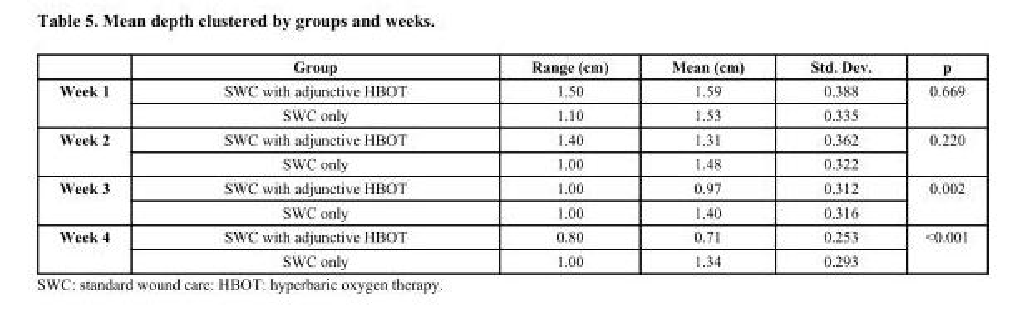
<table><thead><tr><td></td><td>Group</td><td>Range (cm)</td><td>Mean (cm)</td><td>Std. Dev.</td><td>p</td></tr></thead><tbody><tr><td rowspan="2">Week 1</td><td>SWC with adjunctive HBOT</td><td>1.50</td><td>1.59</td><td>0.388</td><td rowspan="2">0.669</td></tr><tr><td>SWC only</td><td>1.10</td><td>1.53</td><td>0.335</td></tr><tr><td rowspan="2">Week 2</td><td>SWC with adjunctive HBOT</td><td>1.40</td><td>1.31</td><td>0.362</td><td rowspan="2">0.220</td></tr><tr><td>SWC only</td><td>1.00</td><td>1.48</td><td>0.322</td></tr><tr><td rowspan="2">Week 3</td><td>SWC with adjunctive HBOT</td><td>1.00</td><td>0.97</td><td>0.312</td><td rowspan="2">0.002</td></tr><tr><td>SWC only</td><td>1.00</td><td>1.40</td><td>0.316</td></tr><tr><td rowspan="2">Week 4</td><td>SWC with adjunctive HBOT</td><td>0.80</td><td>0.71</td><td>0.253</td><td rowspan="2">&lt;0.001</td></tr><tr><td>SWC only</td><td>1.00</td><td>1.34</td><td>0.293</td></tr></tbody></table>